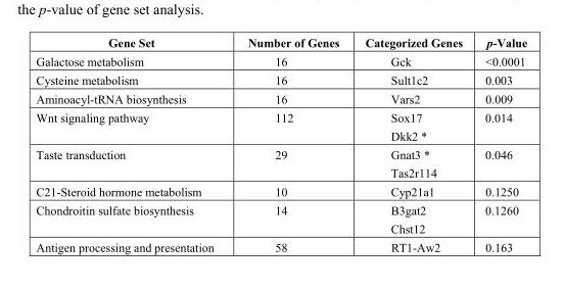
<table><thead><tr><td>Gene Set</td><td>Number of Genes</td><td>Categorized Genes</td><td>p-Value</td></tr></thead><tbody><tr><td>Galactose metabolism</td><td>16</td><td>Gck</td><td>&lt;0.0001</td></tr><tr><td>Cysteine metabolism</td><td>16</td><td>Sult1c2</td><td>0.003</td></tr><tr><td>Aminoacyl-tRNA biosynthesis</td><td>16</td><td>Vars2</td><td>0.009</td></tr><tr><td>Wnt signaling pathway</td><td>112</td><td>Sox17 Dkk2 *</td><td>0.014</td></tr><tr><td>Taste transduction</td><td>29</td><td>Gnat3 * Tas2r114</td><td>0.046</td></tr><tr><td>C21-Steroid hormone metabolism</td><td>10</td><td>Cyp21a1</td><td>0.1250</td></tr><tr><td>Chondroitin sulfate biosynthesis</td><td>14</td><td>B3gat2 Chst12</td><td>0.1260</td></tr><tr><td>Antigen processing and presentation</td><td>58</td><td>RT1-Aw2</td><td>0.163</td></tr></tbody></table>